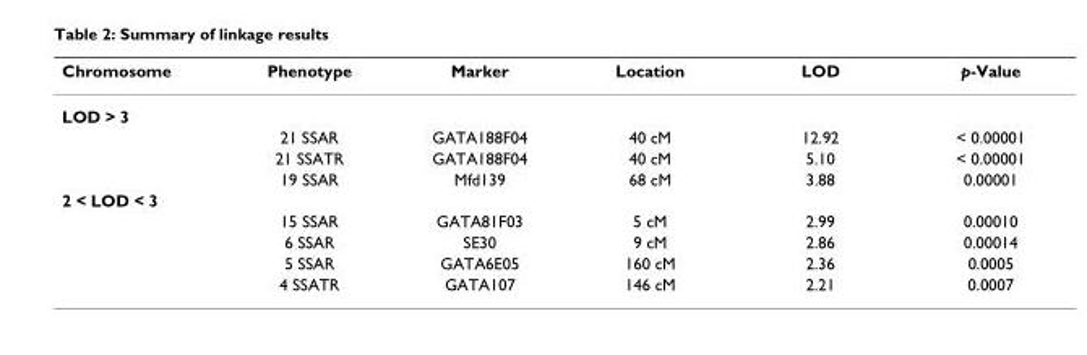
<table><thead><tr><td>Chromosome</td><td>Phenotype</td><td>Marker</td><td>Location</td><td>LOD</td><td>p-Value</td></tr></thead><tbody><tr><td colspan="6">LOD &gt; 3</td></tr><tr><td></td><td>21 SSAR</td><td>GATA188F04</td><td>40 cM</td><td>12.92</td><td>&lt; 0.00001</td></tr><tr><td></td><td>21 SSATR</td><td>GATA188F04</td><td>40 cM</td><td>5.10</td><td>&lt; 0.00001</td></tr><tr><td></td><td>19 SSAR</td><td>Mfd139</td><td>68 cM</td><td>3.88</td><td>0.00001</td></tr><tr><td colspan="6">2 &lt; LOD &lt; 3</td></tr><tr><td></td><td>15 SSAR</td><td>GATA81F03</td><td>5 cM</td><td>2.99</td><td>0.00010</td></tr><tr><td></td><td>6 SSAR</td><td>SE30</td><td>9 cM</td><td>2.86</td><td>0.00014</td></tr><tr><td></td><td>5 SSAR</td><td>GATA6E05</td><td>160 cM</td><td>2.36</td><td>0.0005</td></tr><tr><td></td><td>4 SSATR</td><td>GATA107</td><td>146 cM</td><td>2.21</td><td>0.0007</td></tr></tbody></table>